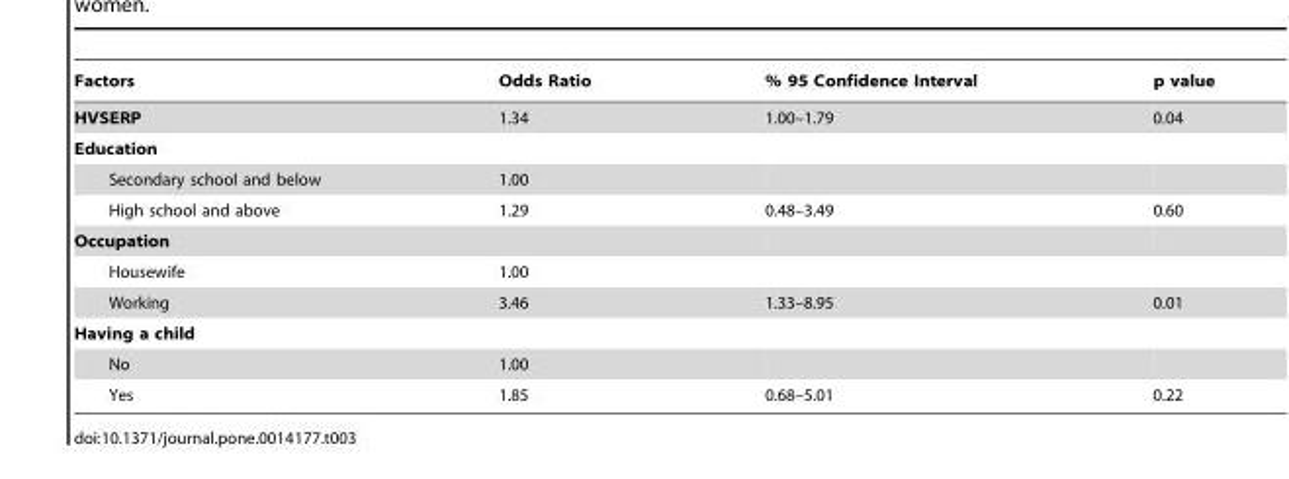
<table><thead><tr><td>Factors</td><td>Odds Ratio</td><td>% 95 Confidence Interval</td><td>p value</td></tr></thead><tbody><tr><td>HVSERP</td><td>1.34</td><td>1.00–1.79</td><td>0.04</td></tr><tr><td colspan="4">Education</td></tr><tr><td>Secondary school and below</td><td>1.00</td><td></td><td></td></tr><tr><td>High school and above</td><td>1.29</td><td>0.48–3.49</td><td>0.60</td></tr><tr><td colspan="4">Occupation</td></tr><tr><td>Housewife</td><td>1.00</td><td></td><td></td></tr><tr><td>Working</td><td>3.46</td><td>1.33–8.95</td><td>0.01</td></tr><tr><td colspan="4">Having a child</td></tr><tr><td>No</td><td>1.00</td><td></td><td></td></tr><tr><td>Yes</td><td>1.85</td><td>0.68–5.01</td><td>0.22</td></tr></tbody></table>